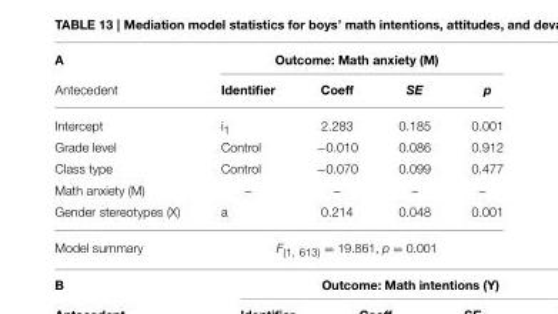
<table><thead><tr><td rowspan="2">A Antecedent</td><td colspan="4">Outcome: Math anxiety (M)</td></tr><tr><td>Identifier</td><td>Coeff</td><td>SE</td><td>p</td></tr></thead><tbody><tr><td>Intercept</td><td>i<sub>1</sub></td><td>2.283</td><td>0.185</td><td>0.001</td></tr><tr><td>Grade level</td><td>Control</td><td>−0.010</td><td>0.086</td><td>0.912</td></tr><tr><td>Class type</td><td>Control</td><td>−0.070</td><td>0.099</td><td>0.477</td></tr><tr><td>Math anxiety (M)</td><td>–</td><td>–</td><td>–</td><td>–</td></tr><tr><td>Gender stereotypes (X)</td><td>a</td><td>0.214</td><td>0.048</td><td>0.001</td></tr><tr><td>Model summary</td><td colspan="4">F<sub>(1, 613)</sub> = 19.861, p = 0.001</td></tr></tbody></table>